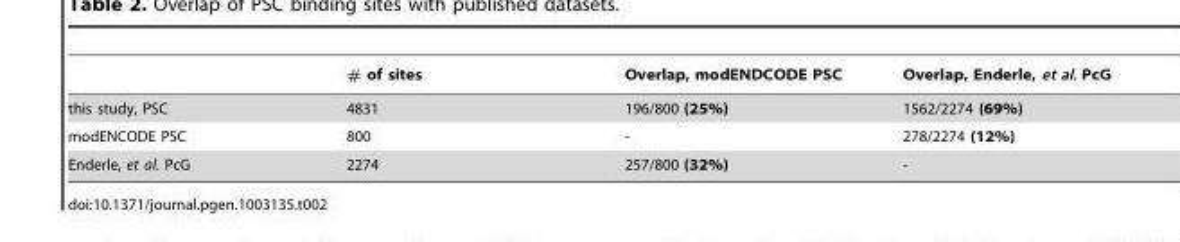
<table><thead><tr><td></td><td># of sites</td><td>Overlap, modENDCODE PSC</td><td>Overlap, Enderle, et al. PcG</td></tr></thead><tbody><tr><td>this study, PSC</td><td>4831</td><td>196/800 (25%)</td><td>1562/2274 (69%)</td></tr><tr><td>modENCODE PSC</td><td>800</td><td>-</td><td>278/2274 (12%)</td></tr><tr><td>Enderle, et al. PcG</td><td>2274</td><td>257/800 (32%)</td><td>-</td></tr></tbody></table>